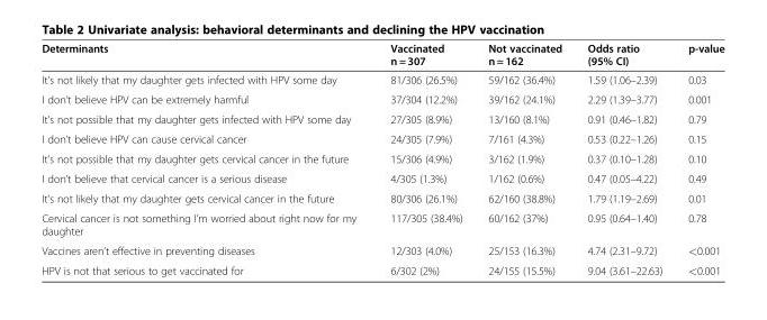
<table><thead><tr><td>Determinants</td><td>Vaccinated n = 307</td><td>Not vaccinated n = 162</td><td>Odds ratio (95% CI)</td><td>p-value</td></tr></thead><tbody><tr><td>It’s not likely that my daughter gets infected with HPV some day</td><td>81/306 (26.5%)</td><td>59/162 (36.4%)</td><td>1.59 (1.06–2.39)</td><td>0.03</td></tr><tr><td>I don’t believe HPV can be extremely harmful</td><td>37/304 (12.2%)</td><td>39/162 (24.1%)</td><td>2.29 (1.39–3.77)</td><td>0.001</td></tr><tr><td>It’s not possible that my daughter gets infected with HPV some day</td><td>27/305 (8.9%)</td><td>13/160 (8.1%)</td><td>0.91 (0.46–1.82)</td><td>0.79</td></tr><tr><td>I don’t believe HPV can cause cervical cancer</td><td>24/305 (7.9%)</td><td>7/161 (4.3%)</td><td>0.53 (0.22–1.26)</td><td>0.15</td></tr><tr><td>It’s not possible that my daughter gets cervical cancer in the future</td><td>15/306 (4.9%)</td><td>3/162 (1.9%)</td><td>0.37 (0.10–1.28)</td><td>0.10</td></tr><tr><td>I don’t believe that cervical cancer is a serious disease</td><td>4/305 (1.3%)</td><td>1/162 (0.6%)</td><td>0.47 (0.05–4.22)</td><td>0.49</td></tr><tr><td>It’s not likely that my daughter gets cervical cancer in the future</td><td>80/306 (26.1%)</td><td>62/160 (38.8%)</td><td>1.79 (1.19–2.69)</td><td>0.01</td></tr><tr><td>Cervical cancer is not something I’m worried about right now for my daughter</td><td>117/305 (38.4%)</td><td>60/162 (37%)</td><td>0.95 (0.64–1.40)</td><td>0.78</td></tr><tr><td>Vaccines aren’t effective in preventing diseases</td><td>12/303 (4.0%)</td><td>25/153 (16.3%)</td><td>4.74 (2.31–9.72)</td><td>&lt;0.001</td></tr><tr><td>HPV is not that serious to get vaccinated for</td><td>6/302 (2%)</td><td>24/155 (15.5%)</td><td>9.04 (3.61–22.63)</td><td>&lt;0.001</td></tr></tbody></table>